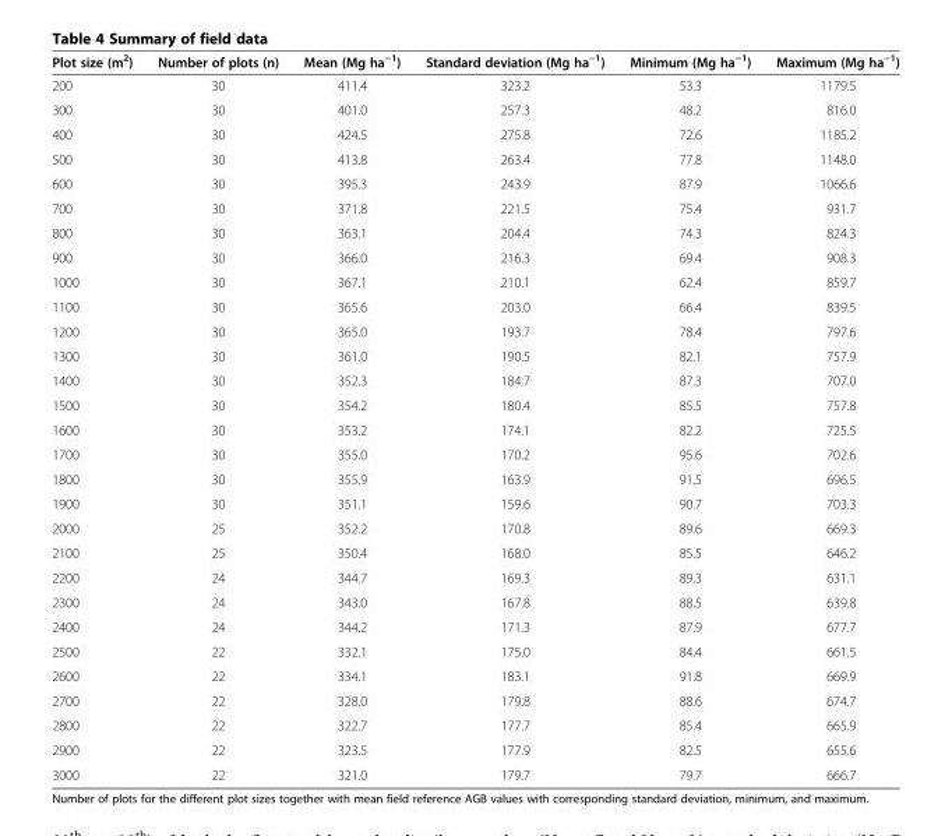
<table><thead><tr><td>Plot size (m<sup>2</sup>)</td><td>Number of plots (n)</td><td>Mean (Mg ha<sup>−1</sup>)</td><td>Standard deviation (Mg ha<sup>−1</sup>)</td><td>Minimum (Mg ha<sup>−1</sup>)</td><td>Maximum (Mg ha<sup>−1</sup>)</td></tr></thead><tbody><tr><td>200</td><td>30</td><td>411.4</td><td>323.2</td><td>53.3</td><td>1179.5</td></tr><tr><td>300</td><td>30</td><td>401.0</td><td>257.3</td><td>48.2</td><td>816.0</td></tr><tr><td>400</td><td>30</td><td>424.5</td><td>275.8</td><td>72.6</td><td>1185.2</td></tr><tr><td>500</td><td>30</td><td>413.8</td><td>263.4</td><td>77.8</td><td>1148.0</td></tr><tr><td>600</td><td>30</td><td>395.3</td><td>243.9</td><td>87.9</td><td>1066.6</td></tr><tr><td>700</td><td>30</td><td>371.8</td><td>221.5</td><td>75.4</td><td>931.7</td></tr><tr><td>800</td><td>30</td><td>363.1</td><td>204.4</td><td>74.3</td><td>824.3</td></tr><tr><td>900</td><td>30</td><td>366.0</td><td>216.3</td><td>69.4</td><td>908.3</td></tr><tr><td>1000</td><td>30</td><td>367.1</td><td>210.1</td><td>62.4</td><td>859.7</td></tr><tr><td>1100</td><td>30</td><td>365.6</td><td>203.0</td><td>66.4</td><td>839.5</td></tr><tr><td>1200</td><td>30</td><td>365.0</td><td>193.7</td><td>78.4</td><td>797.6</td></tr><tr><td>1300</td><td>30</td><td>361.0</td><td>190.5</td><td>82.1</td><td>757.9</td></tr><tr><td>1400</td><td>30</td><td>352.3</td><td>184.7</td><td>87.3</td><td>707.0</td></tr><tr><td>1500</td><td>30</td><td>354.2</td><td>180.4</td><td>85.5</td><td>757.8</td></tr><tr><td>1600</td><td>30</td><td>353.2</td><td>174.1</td><td>82.2</td><td>725.5</td></tr><tr><td>1700</td><td>30</td><td>355.0</td><td>170.2</td><td>95.6</td><td>702.6</td></tr><tr><td>1800</td><td>30</td><td>355.9</td><td>163.9</td><td>91.5</td><td>696.5</td></tr><tr><td>1900</td><td>30</td><td>351.1</td><td>159.6</td><td>90.7</td><td>703.3</td></tr><tr><td>2000</td><td>25</td><td>352.2</td><td>170.8</td><td>89.6</td><td>669.3</td></tr><tr><td>2100</td><td>25</td><td>350.4</td><td>168.0</td><td>85.5</td><td>646.2</td></tr><tr><td>2200</td><td>24</td><td>344.7</td><td>169.3</td><td>89.3</td><td>631.1</td></tr><tr><td>2300</td><td>24</td><td>343.0</td><td>167.8</td><td>88.5</td><td>639.8</td></tr><tr><td>2400</td><td>24</td><td>344.2</td><td>171.3</td><td>87.9</td><td>677.7</td></tr><tr><td>2500</td><td>22</td><td>332.1</td><td>175.0</td><td>84.4</td><td>661.5</td></tr><tr><td>2600</td><td>22</td><td>334.1</td><td>183.1</td><td>91.8</td><td>669.9</td></tr><tr><td>2700</td><td>22</td><td>328.0</td><td>179.8</td><td>88.6</td><td>674.7</td></tr><tr><td>2800</td><td>22</td><td>322.7</td><td>177.7</td><td>85.4</td><td>665.9</td></tr><tr><td>2900</td><td>22</td><td>323.5</td><td>177.9</td><td>82.5</td><td>655.6</td></tr><tr><td>3000</td><td>22</td><td>321.0</td><td>179.7</td><td>79.7</td><td>666.7</td></tr></tbody></table>